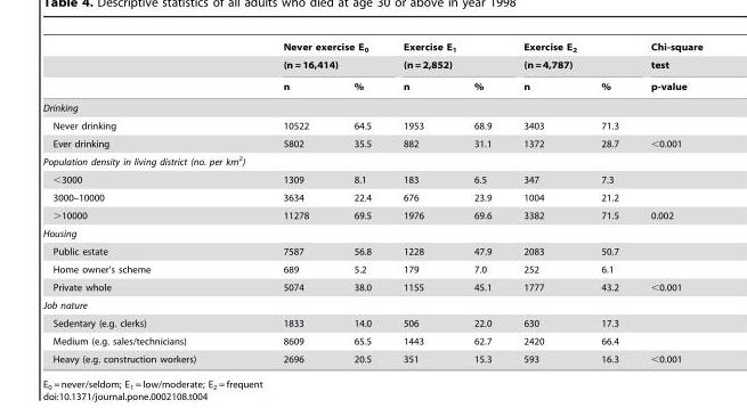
<table><thead><tr><td rowspan="3"></td><td rowspan="2" colspan="2">Never exercise E<sub>0</sub> (n = 16,414)</td><td rowspan="2" colspan="2">Exercise E<sub>1</sub> (n = 2,852)</td><td rowspan="2" colspan="2">Exercise E<sub>2</sub> (n = 4,787)</td><td rowspan="3">Chi-square test p-value</td></tr><tr></tr><tr><td>n</td><td>%</td><td>n</td><td>%</td><td>n</td><td>%</td></tr></thead><tbody><tr><td colspan="8">Drinking</td></tr><tr><td>Never drinking</td><td>10522</td><td>64.5</td><td>1953</td><td>68.9</td><td>3403</td><td>71.3</td><td></td></tr><tr><td>Ever drinking</td><td>5802</td><td>35.5</td><td>882</td><td>31.1</td><td>1372</td><td>28.7</td><td>&lt;0.001</td></tr><tr><td colspan="8">Population density in living district (no. per km<sup>2</sup>)</td></tr><tr><td>&lt;3000</td><td>1309</td><td>8.1</td><td>183</td><td>6.5</td><td>347</td><td>7.3</td><td></td></tr><tr><td>3000–10000</td><td>3634</td><td>22.4</td><td>676</td><td>23.9</td><td>1004</td><td>21.2</td><td></td></tr><tr><td>&gt;10000</td><td>11278</td><td>69.5</td><td>1976</td><td>69.6</td><td>3382</td><td>71.5</td><td>0.002</td></tr><tr><td colspan="8">Housing</td></tr><tr><td>Public estate</td><td>7587</td><td>56.8</td><td>1228</td><td>47.9</td><td>2083</td><td>50.7</td><td></td></tr><tr><td>Home owner’s scheme</td><td>689</td><td>5.2</td><td>179</td><td>7.0</td><td>252</td><td>6.1</td><td></td></tr><tr><td>Private whole</td><td>5074</td><td>38.0</td><td>1155</td><td>45.1</td><td>1777</td><td>43.2</td><td>&lt;0.001</td></tr><tr><td colspan="8">Job nature</td></tr><tr><td>Sedentary (e.g. clerks)</td><td>1833</td><td>14.0</td><td>506</td><td>22.0</td><td>630</td><td>17.3</td><td></td></tr><tr><td>Medium (e.g. sales/technicians)</td><td>8609</td><td>65.5</td><td>1443</td><td>62.7</td><td>2420</td><td>66.4</td><td></td></tr><tr><td>Heavy (e.g. construction workers)</td><td>2696</td><td>20.5</td><td>351</td><td>15.3</td><td>593</td><td>16.3</td><td>&lt;0.001</td></tr></tbody></table>